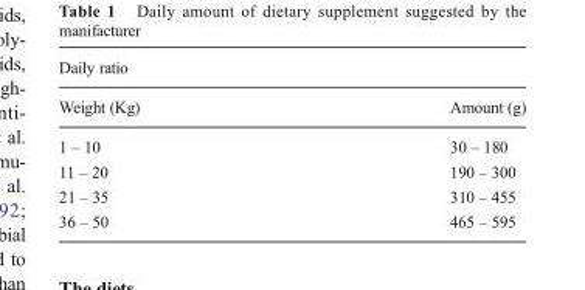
<table><thead><tr><td colspan="2">Daily ratio</td></tr><tr><td>Weight (Kg)</td><td>Amount (g)</td></tr></thead><tbody><tr><td>1 – 10</td><td>30 – 180</td></tr><tr><td>11 – 20</td><td>190 – 300</td></tr><tr><td>21 – 35</td><td>310 – 455</td></tr><tr><td>36 – 50</td><td>465 – 595</td></tr></tbody></table>